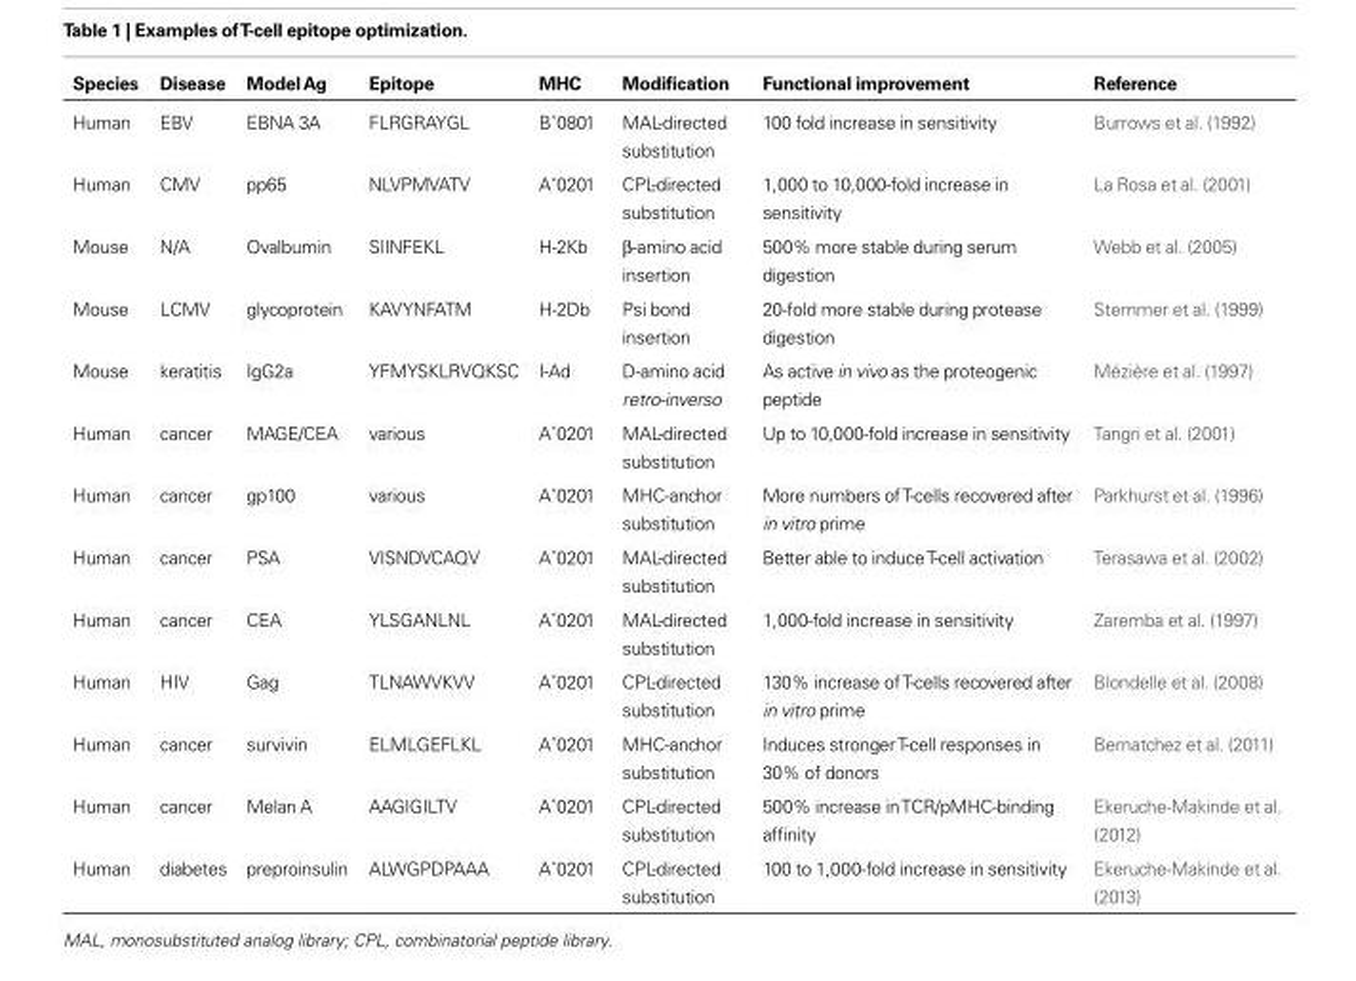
<table><thead><tr><td>Species</td><td>Disease</td><td>Model Ag</td><td>Epitope</td><td>MHC</td><td>Modification</td><td>Functional improvement</td><td>Reference</td></tr></thead><tbody><tr><td>Human</td><td>EBV</td><td>EBNA 3A</td><td>FLRGRAYGL</td><td>B*0801</td><td>MAL-directed substitution</td><td>100 fold increase in sensitivity</td><td>Burrows et al. (1992)</td></tr><tr><td>Human</td><td>CMV</td><td>pp65</td><td>NLVPMVATV</td><td>A*0201</td><td>CPL-directed substitution</td><td>1,000 to 10,000-fold increase in sensitivity</td><td>La Rosa et al. (2001)</td></tr><tr><td>Mouse</td><td>N/A</td><td>Ovalbumin</td><td>SIINFEKL</td><td>H-2Kb</td><td>β-amino acid insertion</td><td>500% more stable during serum digestion</td><td>Webb et al. (2005)</td></tr><tr><td>Mouse</td><td>LCMV</td><td>glycoprotein</td><td>KAVYNFATM</td><td>H-2Db</td><td>Psi bond insertion</td><td>20-fold more stable during protease digestion</td><td>Stemmer et al. (1999)</td></tr><tr><td>Mouse</td><td>keratitis</td><td>IgG2a</td><td>YFMYSKLRVQKSC</td><td>I-Ad</td><td>D-amino acid retro-inverso</td><td>As active in vivo as the proteogenic peptide</td><td>Mézière et al. (1997)</td></tr><tr><td>Human</td><td>cancer</td><td>MAGE/CEA</td><td>various</td><td>A*0201</td><td>MAL-directed substitution</td><td>Up to 10,000-fold increase in sensitivity</td><td>Tangri et al. (2001)</td></tr><tr><td>Human</td><td>cancer</td><td>gp100</td><td>various</td><td>A*0201</td><td>MHC-anchor substitution</td><td>More numbers of T-cells recovered after in vitro prime</td><td>Parkhurst et al. (1996)</td></tr><tr><td>Human</td><td>cancer</td><td>PSA</td><td>VISNDVCAQV</td><td>A*0201</td><td>MAL-directed substitution</td><td>Better able to induce T-cell activation</td><td>Terasawa et al. (2002)</td></tr><tr><td>Human</td><td>cancer</td><td>CEA</td><td>YLSGANLNL</td><td>A*0201</td><td>MAL-directed substitution</td><td>1,000-fold increase in sensitivity</td><td>Zaremba et al. (1997)</td></tr><tr><td>Human</td><td>HIV</td><td>Gag</td><td>TLNAWVKVV</td><td>A*0201</td><td>CPL-directed substitution</td><td>130% increase of T-cells recovered after in vitro prime</td><td>Blondelle et al. (2008)</td></tr><tr><td>Human</td><td>cancer</td><td>survivin</td><td>ELMLGEFLKL</td><td>A*0201</td><td>MHC-anchor substitution</td><td>Induces stronger T-cell responses in 30% of donors</td><td>Bernatchez et al. (2011)</td></tr><tr><td>Human</td><td>cancer</td><td>Melan A</td><td>AAGIGILTV</td><td>A*0201</td><td>CPL-directed substitution</td><td>500% increase in TCR/pMHC-binding affinity</td><td>Ekeruche-Makinde et al. (2012)</td></tr><tr><td>Human</td><td>diabetes</td><td>preproinsulin</td><td>ALWGPDPAAA</td><td>A*0201</td><td>CPL-directed substitution</td><td>100 to 1,000-fold increase in sensitivity</td><td>Ekeruche-Makinde et al. (2013)</td></tr></tbody></table>